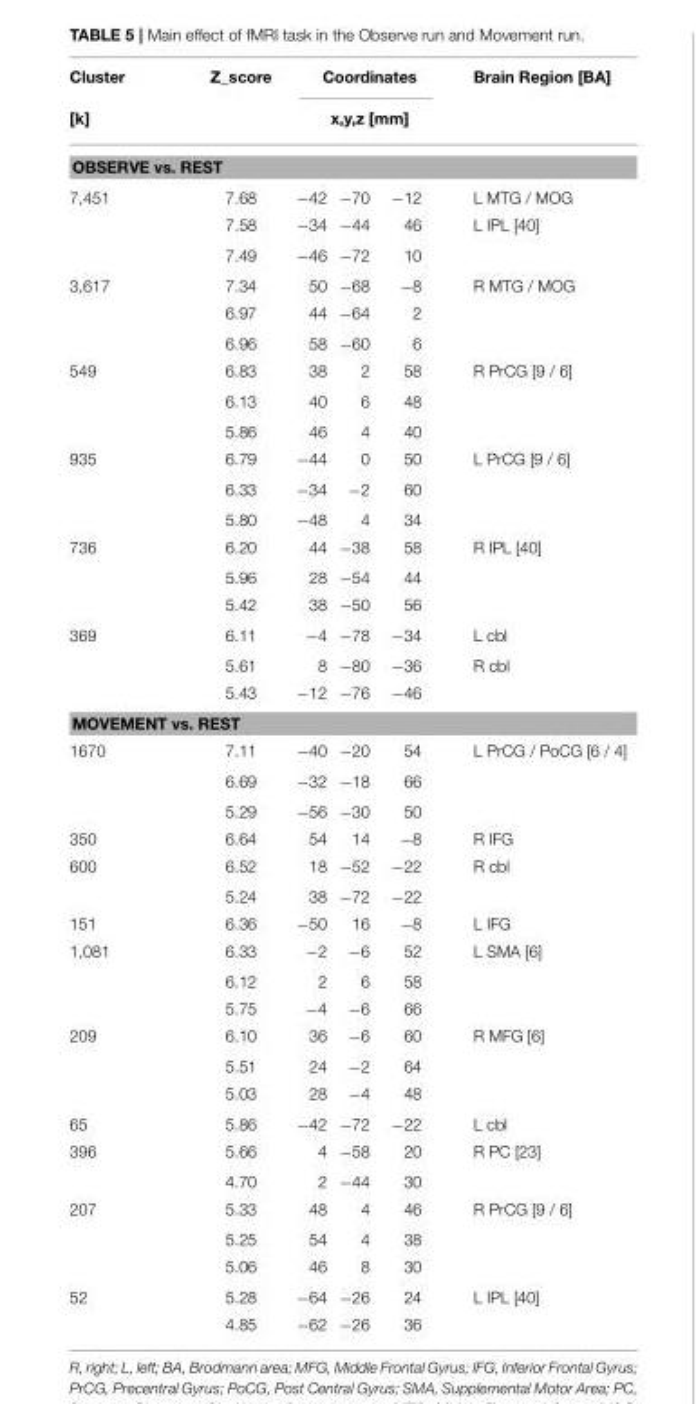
<table><thead><tr><td rowspan="2">Cluster [k]</td><td rowspan="2">Z_score</td><td rowspan="2" colspan="3">Coordinates x,y,z [mm]</td><td rowspan="2">Brain Region [BA]</td></tr><tr></tr><tr><td colspan="6">OBSERVE vs. REST</td></tr><tr><td>7,451</td><td>7.68</td><td>−42</td><td>−70</td><td>−12</td><td>L MTG / MOG</td></tr></thead><tbody><tr><td></td><td>7.58</td><td>−34</td><td>−44</td><td>46</td><td>L IPL [40]</td></tr><tr><td></td><td>7.49</td><td>−46</td><td>−72</td><td>10</td><td></td></tr><tr><td rowspan="3">3,617</td><td>7.34</td><td>50</td><td>−68</td><td>−8</td><td>R MTG / MOG</td></tr><tr><td>6.97</td><td>44</td><td>−64</td><td>2</td><td></td></tr><tr><td>6.96</td><td>58</td><td>−60</td><td>6</td><td></td></tr><tr><td rowspan="3">549</td><td>6.83</td><td>38</td><td>2</td><td>58</td><td>R PrCG [9 / 6]</td></tr><tr><td>6.13</td><td>40</td><td>6</td><td>48</td><td></td></tr><tr><td>5.86</td><td>46</td><td>4</td><td>40</td><td></td></tr><tr><td rowspan="3">935</td><td>6.79</td><td>−44</td><td>0</td><td>50</td><td>L PrCG [9 / 6]</td></tr><tr><td>6.33</td><td>−34</td><td>−2</td><td>60</td><td></td></tr><tr><td>5.80</td><td>−48</td><td>4</td><td>34</td><td></td></tr><tr><td rowspan="3">736</td><td>6.20</td><td>44</td><td>−38</td><td>58</td><td>R IPL [40]</td></tr><tr><td>5.96</td><td>28</td><td>−54</td><td>44</td><td></td></tr><tr><td>5.42</td><td>38</td><td>−50</td><td>56</td><td></td></tr><tr><td rowspan="3">369</td><td>6.11</td><td>−4</td><td>−78</td><td>−34</td><td>L cbl</td></tr><tr><td>5.61</td><td>8</td><td>−80</td><td>−36</td><td>R cbl</td></tr><tr><td>5.43</td><td>−12</td><td>−76</td><td>−46</td><td></td></tr><tr><td colspan="6">MOVEMENT vs. REST</td></tr><tr><td rowspan="3">1670</td><td>7.11</td><td>−40</td><td>−20</td><td>54</td><td>L PrCG / PoCG [6 / 4]</td></tr><tr><td>6.69</td><td>−32</td><td>−18</td><td>66</td><td></td></tr><tr><td>5.29</td><td>−56</td><td>−30</td><td>50</td><td></td></tr><tr><td>350</td><td>6.64</td><td>54</td><td>14</td><td>−8</td><td>R IFG</td></tr><tr><td rowspan="2">600</td><td>6.52</td><td>18</td><td>−52</td><td>−22</td><td>R cbl</td></tr><tr><td>5.24</td><td>38</td><td>−72</td><td>−22</td><td></td></tr><tr><td>151</td><td>6.36</td><td>−50</td><td>16</td><td>−8</td><td>L IFG</td></tr><tr><td rowspan="3">1,081</td><td>6.33</td><td>−2</td><td>−6</td><td>52</td><td>L SMA [6]</td></tr><tr><td>6.12</td><td>2</td><td>6</td><td>58</td><td></td></tr><tr><td>5.75</td><td>−4</td><td>−6</td><td>66</td><td></td></tr><tr><td rowspan="3">209</td><td>6.10</td><td>36</td><td>−6</td><td>60</td><td>R MFG [6]</td></tr><tr><td>5.51</td><td>24</td><td>−2</td><td>64</td><td></td></tr><tr><td>5.03</td><td>28</td><td>−4</td><td>48</td><td></td></tr><tr><td>65</td><td>5.86</td><td>−42</td><td>−72</td><td>−22</td><td>L cbl</td></tr><tr><td rowspan="2">396</td><td>5.66</td><td>4</td><td>−58</td><td>20</td><td>R PC [23]</td></tr><tr><td>4.70</td><td>2</td><td>−44</td><td>30</td><td></td></tr><tr><td rowspan="3">207</td><td>5.33</td><td>48</td><td>4</td><td>46</td><td>R PrCG [9 / 6]</td></tr><tr><td>5.25</td><td>54</td><td>4</td><td>38</td><td></td></tr><tr><td>5.06</td><td>46</td><td>8</td><td>30</td><td></td></tr><tr><td rowspan="2">52</td><td>5.28</td><td>−64</td><td>−26</td><td>24</td><td>L IPL [40]</td></tr><tr><td>4.85</td><td>−62</td><td>−26</td><td>36</td><td></td></tr></tbody></table>